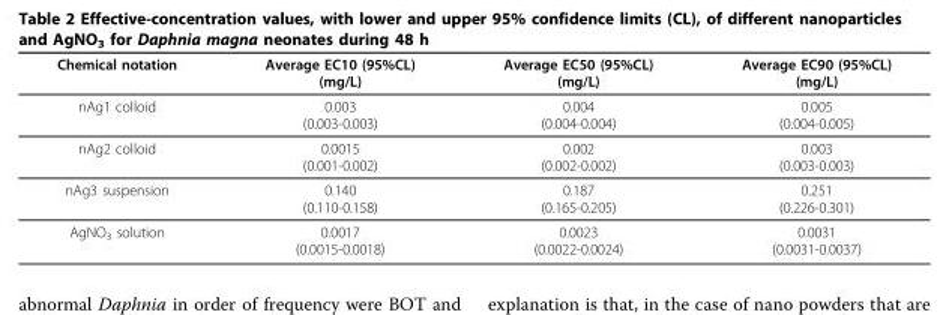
<table><thead><tr><td>Chemical notation</td><td>Average EC10 (95%CL) (mg/L)</td><td>Average EC50 (95%CL) (mg/L)</td><td>Average EC90 (95%CL) (mg/L)</td></tr></thead><tbody><tr><td>nAg1 colloid</td><td>0.003 (0.003-0.003)</td><td>0.004 (0.004-0.004)</td><td>0.005 (0.004-0.005)</td></tr><tr><td>nAg2 colloid</td><td>0.0015 (0.001-0.002)</td><td>0.002 (0.002-0.002)</td><td>0.003 (0.003-0.003)</td></tr><tr><td>nAg3 suspension</td><td>0.140 (0.110-0.158)</td><td>0.187 (0.165-0.205)</td><td>0.251 (0.226-0.301)</td></tr><tr><td>AgNO<sub>3</sub> solution</td><td>0.0017 (0.0015-0.0018)</td><td>0.0023 (0.0022-0.0024)</td><td>0.0031 (0.0031-0.0037)</td></tr></tbody></table>